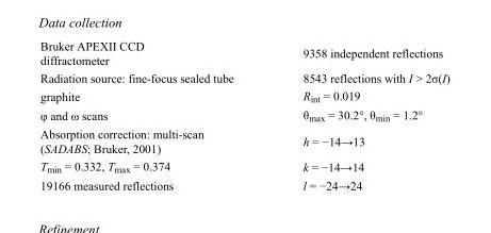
<table><tbody><tr><td>Bruker APEXII CCD diffractometer</td><td>9358 independent reflections</td></tr><tr><td>Radiation source: fine-focus sealed tube</td><td>8543 reflections with I &gt; 2σ(I)</td></tr><tr><td>graphite</td><td>R<sub>int</sub> = 0.019</td></tr><tr><td>φ and ω scans</td><td>θ<sub>max</sub> = 30.2°, θ<sub>min</sub> = 1.2°</td></tr><tr><td>Absorption correction: multi-scan (SADABS; Bruker, 2001)</td><td>h = −14→13</td></tr><tr><td>T<sub>min</sub> = 0.332, T<sub>max</sub> = 0.374</td><td>k = −14→14</td></tr><tr><td>19166 measured reflections</td><td>l = −24→24</td></tr></tbody></table>